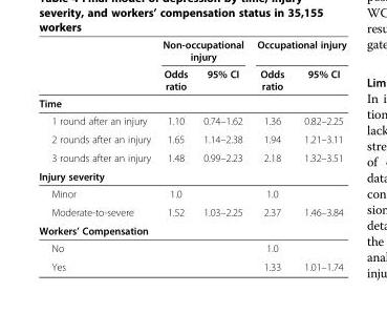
<table><thead><tr><td rowspan="2"></td><td colspan="2">Non-occupational injury</td><td colspan="2">Occupational injury</td></tr><tr><td>Odds ratio</td><td>95% CI</td><td>Odds ratio</td><td>95% CI</td></tr></thead><tbody><tr><td colspan="5">Time</td></tr><tr><td>1 round after an injury</td><td>1.10</td><td>0.74–1.62</td><td>1.36</td><td>0.82–2.25</td></tr><tr><td>2 rounds after an injury</td><td>1.65</td><td>1.14–2.38</td><td>1.94</td><td>1.21–3.11</td></tr><tr><td>3 rounds after an injury</td><td>1.48</td><td>0.99–2.23</td><td>2.18</td><td>1.32–3.51</td></tr><tr><td colspan="5">Injury severity</td></tr><tr><td>Minor</td><td>1.0</td><td></td><td>1.0</td><td></td></tr><tr><td>Moderate-to-severe</td><td>1.52</td><td>1.03–2.25</td><td>2.37</td><td>1.46–3.84</td></tr><tr><td colspan="5">Workers’ Compensation</td></tr><tr><td>No</td><td></td><td></td><td>1.0</td><td></td></tr><tr><td>Yes</td><td></td><td></td><td>1.33</td><td>1.01–1.74</td></tr></tbody></table>